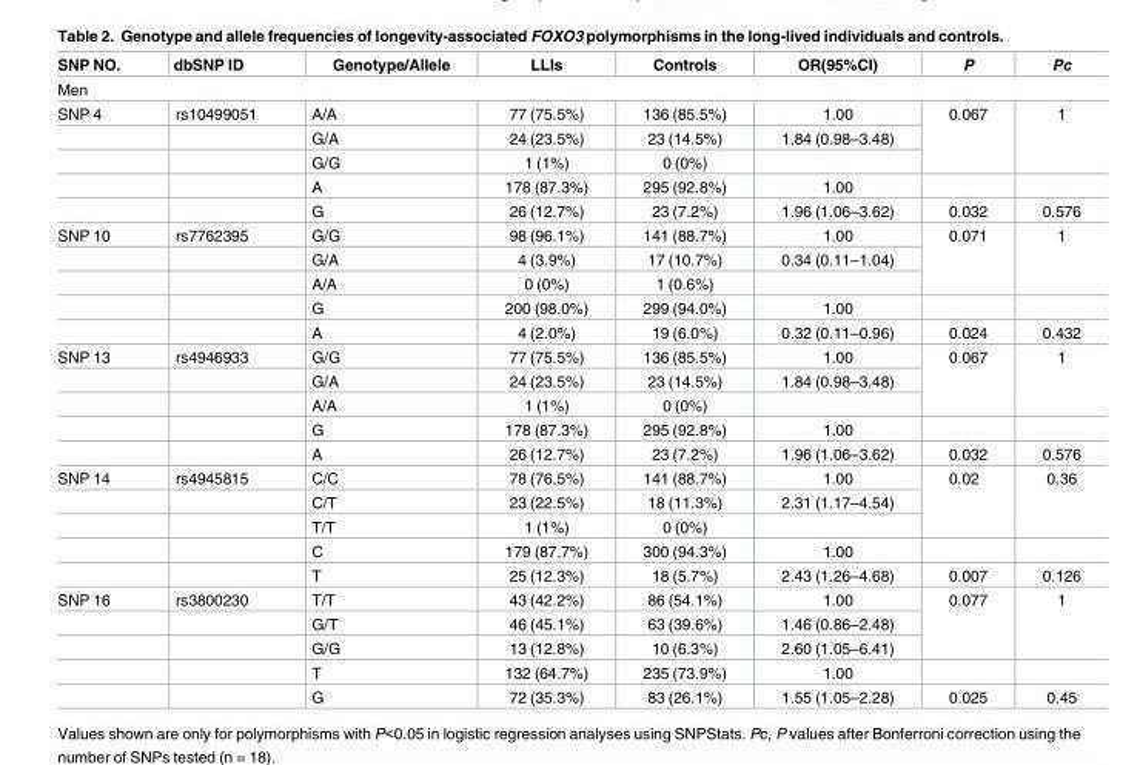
<table><thead><tr><td>SNP NO.</td><td>dbSNP ID</td><td>Genotype/Allele</td><td>LLIs</td><td>Controls</td><td>OR(95%CI)</td><td>P</td><td>Pc</td></tr></thead><tbody><tr><td colspan="8">Men</td></tr><tr><td rowspan="5">SNP 4</td><td>rs10499051</td><td>A/A</td><td>77 (75.5%)</td><td>136 (85.5%)</td><td>1.00</td><td rowspan="3">0.067</td><td rowspan="3">1</td></tr><tr><td></td><td>G/A</td><td>24 (23.5%)</td><td>23 (14.5%)</td><td>1.84 (0.98–3.48)</td></tr><tr><td></td><td>G/G</td><td>1 (1%)</td><td>0 (0%)</td><td></td></tr><tr><td></td><td>A</td><td>178 (87.3%)</td><td>295 (92.8%)</td><td>1.00</td><td></td><td></td></tr><tr><td></td><td>G</td><td>26 (12.7%)</td><td>23 (7.2%)</td><td>1.96 (1.06–3.62)</td><td>0.032</td><td>0.576</td></tr><tr><td rowspan="5">SNP 10</td><td>rs7762395</td><td>G/G</td><td>98 (96.1%)</td><td>141 (88.7%)</td><td>1.00</td><td rowspan="3">0.071</td><td rowspan="3">1</td></tr><tr><td></td><td>G/A</td><td>4 (3.9%)</td><td>17 (10.7%)</td><td>0.34 (0.11–1.04)</td></tr><tr><td></td><td>A/A</td><td>0 (0%)</td><td>1 (0.6%)</td><td></td></tr><tr><td></td><td>G</td><td>200 (98.0%)</td><td>299 (94.0%)</td><td>1.00</td><td></td><td></td></tr><tr><td></td><td>A</td><td>4 (2.0%)</td><td>19 (6.0%)</td><td>0.32 (0.11–0.96)</td><td>0.024</td><td>0.432</td></tr><tr><td rowspan="5">SNP 13</td><td>rs4946933</td><td>G/G</td><td>77 (75.5%)</td><td>136 (85.5%)</td><td>1.00</td><td rowspan="3">0.067</td><td rowspan="3">1</td></tr><tr><td></td><td>G/A</td><td>24 (23.5%)</td><td>23 (14.5%)</td><td>1.84 (0.98–3.48)</td></tr><tr><td></td><td>A/A</td><td>1 (1%)</td><td>0 (0%)</td><td></td></tr><tr><td></td><td>G</td><td>178 (87.3%)</td><td>295 (92.8%)</td><td>1.00</td><td></td><td></td></tr><tr><td></td><td>A</td><td>26 (12.7%)</td><td>23 (7.2%)</td><td>1.96 (1.06–3.62)</td><td>0.032</td><td>0.576</td></tr><tr><td rowspan="5">SNP 14</td><td>rs4945815</td><td>C/C</td><td>78 (76.5%)</td><td>141 (88.7%)</td><td>1.00</td><td rowspan="3">0.02</td><td rowspan="3">0.36</td></tr><tr><td></td><td>C/T</td><td>23 (22.5%)</td><td>18 (11.3%)</td><td>2.31 (1.17–4.54)</td></tr><tr><td></td><td>T/T</td><td>1 (1%)</td><td>0 (0%)</td><td></td></tr><tr><td></td><td>C</td><td>179 (87.7%)</td><td>300 (94.3%)</td><td>1.00</td><td></td><td></td></tr><tr><td></td><td>T</td><td>25 (12.3%)</td><td>18 (5.7%)</td><td>2.43 (1.26–4.68)</td><td>0.007</td><td>0.126</td></tr><tr><td rowspan="5">SNP 16</td><td>rs3800230</td><td>T/T</td><td>43 (42.2%)</td><td>86 (54.1%)</td><td>1.00</td><td rowspan="3">0.077</td><td rowspan="3">1</td></tr><tr><td></td><td>G/T</td><td>46 (45.1%)</td><td>63 (39.6%)</td><td>1.46 (0.86–2.48)</td></tr><tr><td></td><td>G/G</td><td>13 (12.8%)</td><td>10 (6.3%)</td><td>2.60 (1.05–6.41)</td></tr><tr><td></td><td>T</td><td>132 (64.7%)</td><td>235 (73.9%)</td><td>1.00</td><td></td><td></td></tr><tr><td></td><td>G</td><td>72 (35.3%)</td><td>83 (26.1%)</td><td>1.55 (1.05–2.28)</td><td>0.025</td><td>0.45</td></tr></tbody></table>